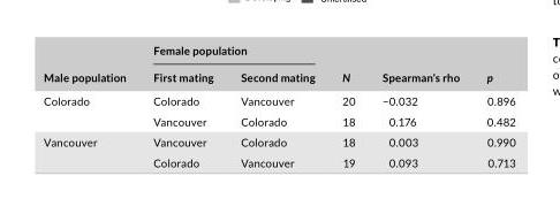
<table><thead><tr><td rowspan="2">Male population</td><td colspan="2">Female population</td><td rowspan="2">N</td><td rowspan="2">Spearman’s rho</td><td rowspan="2">p</td></tr><tr><td>First mating</td><td>Second mating</td></tr></thead><tbody><tr><td rowspan="2">Colorado</td><td>Colorado</td><td>Vancouver</td><td>20</td><td>−0.032</td><td>0.896</td></tr><tr><td>Vancouver</td><td>Colorado</td><td>18</td><td>0.176</td><td>0.482</td></tr><tr><td rowspan="2">Vancouver</td><td>Vancouver</td><td>Colorado</td><td>18</td><td>0.003</td><td>0.990</td></tr><tr><td>Colorado</td><td>Vancouver</td><td>19</td><td>0.093</td><td>0.713</td></tr></tbody></table>